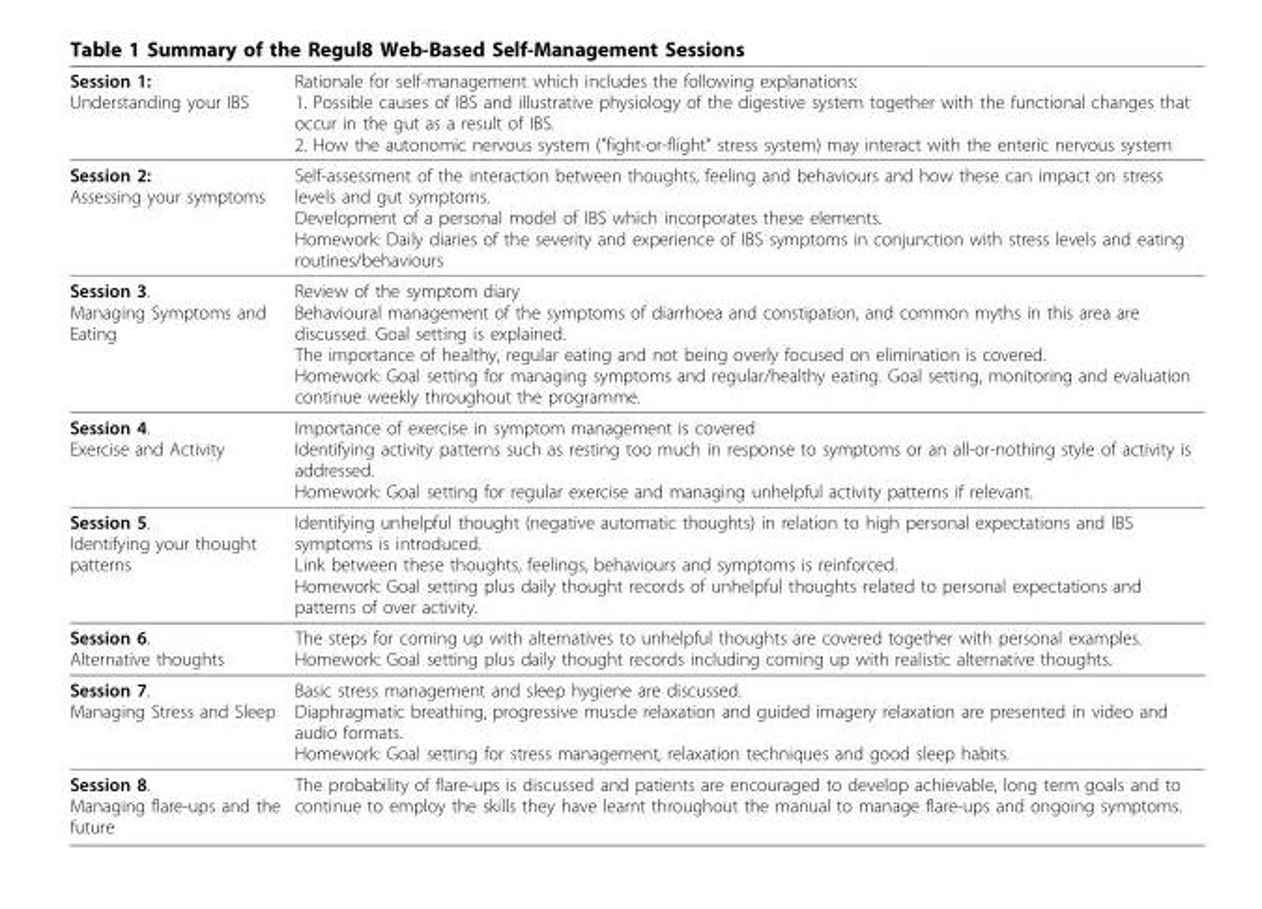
<table><thead><tr><td>Session 1: Understanding your IBS</td><td>Rationale for self-management which includes the following explanations: 1. Possible causes of IBS and illustrative physiology of the digestive system together with the functional changes that occur in the gut as a result of IBS. 2. How the autonomic nervous system (&quot;fight-or-flight” stress system) may interact with the enteric nervous system</td></tr></thead><tbody><tr><td>Session 2: Assessing your symptoms</td><td>Self-assessment of the interaction between thoughts, feeling and behaviours and how these can impact on stress levels and gut symptoms. Development of a personal model of IBS which incorporates these elements. Homework: Daily diaries of the severity and experience of IBS symptoms in conjunction with stress levels and eating routines/behaviours</td></tr><tr><td>Session 3. Managing Symptoms and Eating</td><td>Review of the symptom diary Behavioural management of the symptoms of diarrhoea and constipation, and common myths in this area are discussed. Goal setting is explained. The importance of healthy, regular eating and not being overly focused on elimination is covered. Homework: Goal setting for managing symptoms and regular/healthy eating. Goal setting, monitoring and evaluation continue weekly throughout the programme.</td></tr><tr><td>Session 4. Exercise and Activity</td><td>Importance of exercise in symptom management is covered Identifying activity patterns such as resting too much in response to symptoms or an all-or-nothing style of activity is addressed. Homework: Goal setting for regular exercise and managing unhelpful activity patterns if relevant.</td></tr><tr><td>Session 5. Identifying your thought patterns</td><td>Identifying unhelpful thought (negative automatic thoughts) in relation to high personal expectations and IBS symptoms is introduced. Link between these thoughts, feelings, behaviours and symptoms is reinforced. Homework: Goal setting plus daily thought records of unhelpful thoughts related to personal expectations and patterns of over activity.</td></tr><tr><td>Session 6. Alternative thoughts</td><td>The steps for coming up with alternatives to unhelpful thoughts are covered together with personal examples. Homework: Goal setting plus daily thought records including coming up with realistic alternative thoughts.</td></tr><tr><td>Session 7. Managing Stress and Sleep</td><td>Basic stress management and sleep hygiene are discussed. Diaphragmatic breathing, progressive muscle relaxation and guided imagery relaxation are presented in video and audio formats. Homework: Goal setting for stress management, relaxation techniques and good sleep habits.</td></tr><tr><td>Session 8. Managing flare-ups and the future</td><td>The probability of flare-ups is discussed and patients are encouraged to develop achievable, long term goals and to continue to employ the skills they have learnt throughout the manual to manage flare-ups and ongoing symptoms.</td></tr></tbody></table>